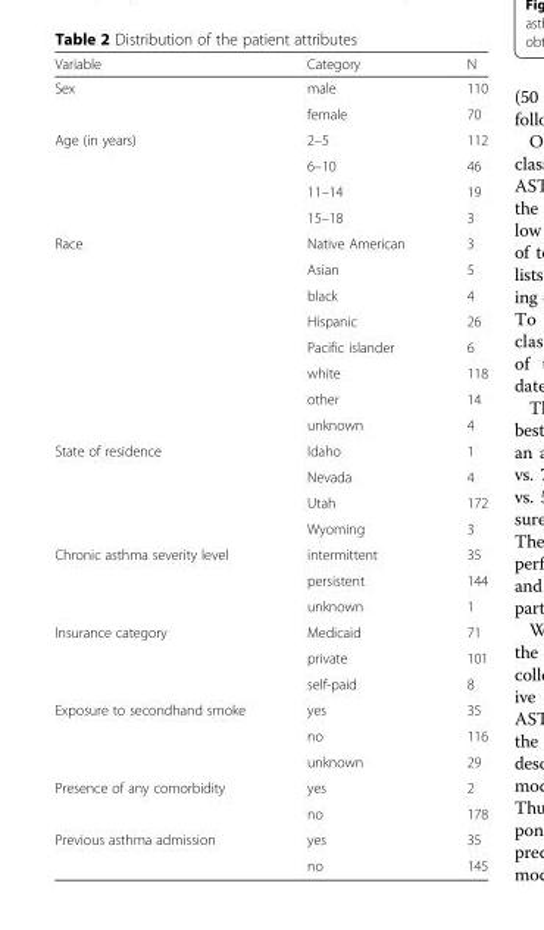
<table><thead><tr><td>Variable</td><td>Category</td><td>N</td></tr></thead><tbody><tr><td rowspan="2">Sex</td><td>male</td><td>110</td></tr><tr><td>female</td><td>70</td></tr><tr><td rowspan="4">Age (in years)</td><td>2–5</td><td>112</td></tr><tr><td>6–10</td><td>46</td></tr><tr><td>11–14</td><td>19</td></tr><tr><td>15–18</td><td>3</td></tr><tr><td rowspan="8">Race</td><td>Native American</td><td>3</td></tr><tr><td>Asian</td><td>5</td></tr><tr><td>black</td><td>4</td></tr><tr><td>Hispanic</td><td>26</td></tr><tr><td>Pacific islander</td><td>6</td></tr><tr><td>white</td><td>118</td></tr><tr><td>other</td><td>14</td></tr><tr><td>unknown</td><td>4</td></tr><tr><td rowspan="4">State of residence</td><td>Idaho</td><td>1</td></tr><tr><td>Nevada</td><td>4</td></tr><tr><td>Utah</td><td>172</td></tr><tr><td>Wyoming</td><td>3</td></tr><tr><td rowspan="3">Chronic asthma severity level</td><td>intermittent</td><td>35</td></tr><tr><td>persistent</td><td>144</td></tr><tr><td>unknown</td><td>1</td></tr><tr><td rowspan="3">Insurance category</td><td>Medicaid</td><td>71</td></tr><tr><td>private</td><td>101</td></tr><tr><td>self-paid</td><td>8</td></tr><tr><td rowspan="3">Exposure to secondhand smoke</td><td>yes</td><td>35</td></tr><tr><td>no</td><td>116</td></tr><tr><td>unknown</td><td>29</td></tr><tr><td rowspan="2">Presence of any comorbidity</td><td>yes</td><td>2</td></tr><tr><td>no</td><td>178</td></tr><tr><td rowspan="2">Previous asthma admission</td><td>yes</td><td>35</td></tr><tr><td>no</td><td>145</td></tr></tbody></table>